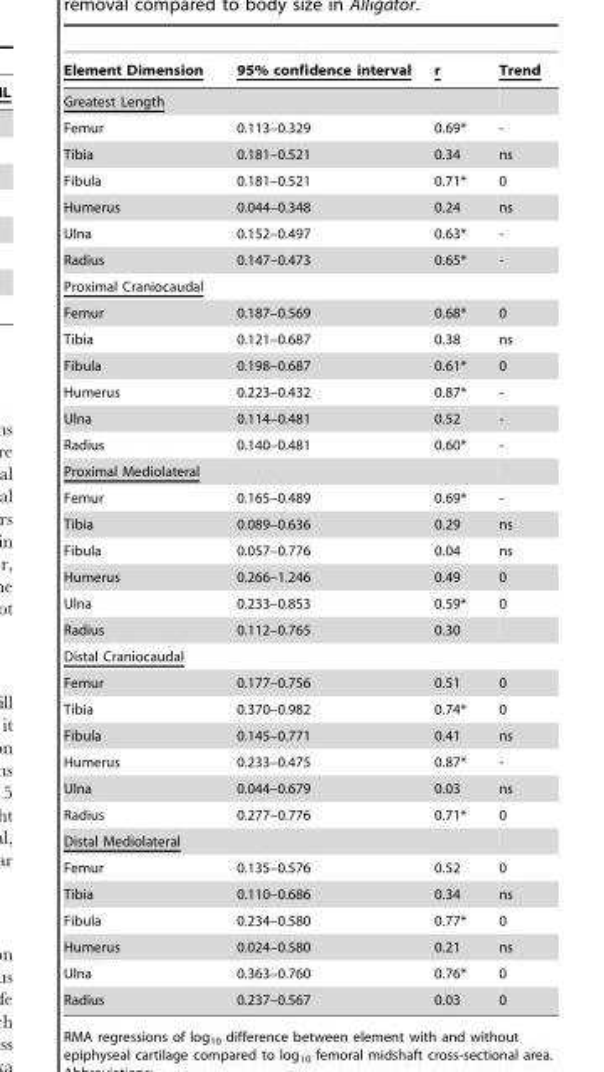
<table><thead><tr><td>Element Dimension</td><td>95% confidence interval</td><td>r</td><td>Trend</td></tr></thead><tbody><tr><td colspan="4">Greatest Length</td></tr><tr><td>Femur</td><td>0.113–0.329</td><td>0.69*</td><td>-</td></tr><tr><td>Tibia</td><td>0.181–0.521</td><td>0.34</td><td>ns</td></tr><tr><td>Fibula</td><td>0.181–0.521</td><td>0.71*</td><td>0</td></tr><tr><td>Humerus</td><td>0.044–0.348</td><td>0.24</td><td>ns</td></tr><tr><td>Ulna</td><td>0.152–0.497</td><td>0.63*</td><td>-</td></tr><tr><td>Radius</td><td>0.147–0.473</td><td>0.65*</td><td>-</td></tr><tr><td colspan="4">Proximal Craniocaudal</td></tr><tr><td>Femur</td><td>0.187–0.569</td><td>0.68*</td><td>0</td></tr><tr><td>Tibia</td><td>0.121–0.687</td><td>0.38</td><td>ns</td></tr><tr><td>Fibula</td><td>0.198–0.687</td><td>0.61*</td><td>0</td></tr><tr><td>Humerus</td><td>0.223–0.432</td><td>0.87*</td><td>-</td></tr><tr><td>Ulna</td><td>0.114–0.481</td><td>0.52</td><td>-</td></tr><tr><td>Radius</td><td>0.140–0.481</td><td>0.60*</td><td>-</td></tr><tr><td colspan="4">Proximal Mediolateral</td></tr><tr><td>Femur</td><td>0.165–0.489</td><td>0.69*</td><td>-</td></tr><tr><td>Tibia</td><td>0.089–0.636</td><td>0.29</td><td>ns</td></tr><tr><td>Fibula</td><td>0.057–0.776</td><td>0.04</td><td>ns</td></tr><tr><td>Humerus</td><td>0.266–1.246</td><td>0.49</td><td>0</td></tr><tr><td>Ulna</td><td>0.233–0.853</td><td>0.59*</td><td>0</td></tr><tr><td>Radius</td><td>0.112–0.765</td><td>0.30</td><td></td></tr><tr><td colspan="4">Distal Craniocaudal</td></tr><tr><td>Femur</td><td>0.177–0.756</td><td>0.51</td><td>0</td></tr><tr><td>Tibia</td><td>0.370–0.982</td><td>0.74*</td><td>0</td></tr><tr><td>Fibula</td><td>0.145–0.771</td><td>0.41</td><td>ns</td></tr><tr><td>Humerus</td><td>0.233–0.475</td><td>0.87*</td><td>-</td></tr><tr><td>Ulna</td><td>0.044–0.679</td><td>0.03</td><td>ns</td></tr><tr><td>Radius</td><td>0.277–0.776</td><td>0.71*</td><td>0</td></tr><tr><td colspan="4">Distal Mediolateral</td></tr><tr><td>Femur</td><td>0.135–0.576</td><td>0.52</td><td>0</td></tr><tr><td>Tibia</td><td>0.110–0.686</td><td>0.34</td><td>ns</td></tr><tr><td>Fibula</td><td>0.234–0.580</td><td>0.77*</td><td>0</td></tr><tr><td>Humerus</td><td>0.024–0.580</td><td>0.21</td><td>ns</td></tr><tr><td>Ulna</td><td>0.363–0.760</td><td>0.76*</td><td>0</td></tr><tr><td>Radius</td><td>0.237–0.567</td><td>0.03</td><td>0</td></tr></tbody></table>